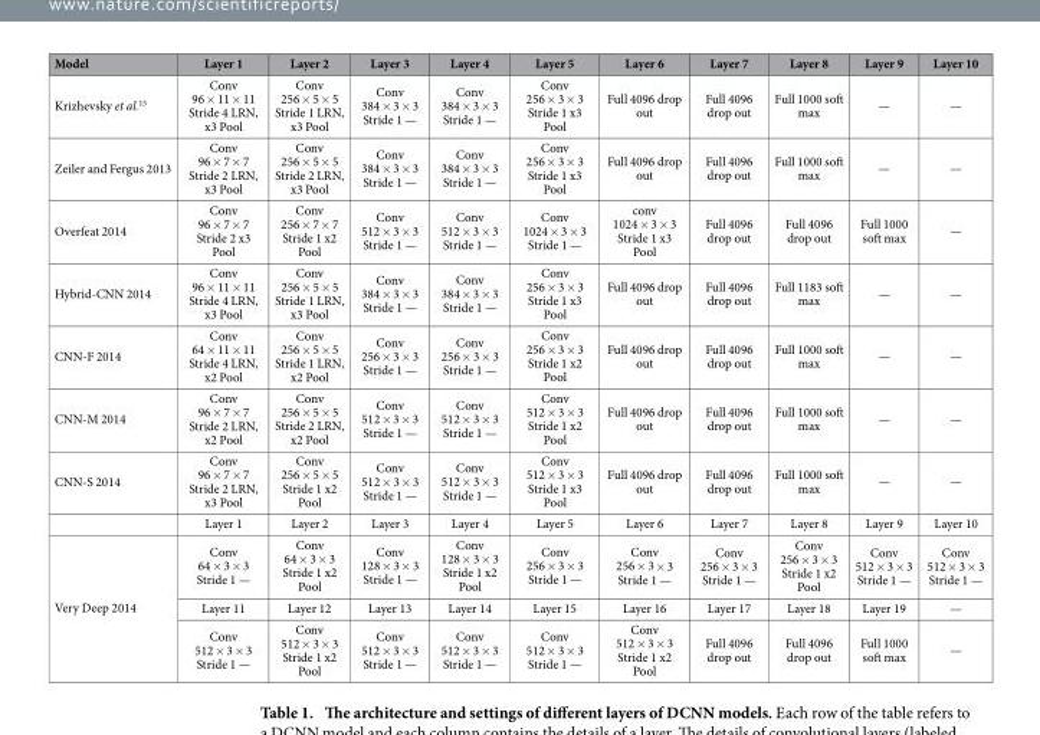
<table><thead><tr><td>Model</td><td>Layer 1</td><td>Layer 2</td><td>Layer 3</td><td>Layer 4</td><td>Layer 5</td><td>Layer 6</td><td>Layer 7</td><td>Layer 8</td><td>Layer 9</td><td>Layer 10</td></tr></thead><tbody><tr><td>Krizhevsky et al.<sup>15</sup></td><td>Conv 96 × 11 × 11 Stride 4 LRN, x3 Pool</td><td>Conv 256 × 5 × 5 Stride 1 LRN, x3 Pool</td><td>Conv 384 × 3 × 3 Stride 1 —</td><td>Conv 384 × 3 × 3 Stride 1 —</td><td>Conv 256 × 3 × 3 Stride 1 x3 Pool</td><td>Full 4096 drop out</td><td>Full 4096 drop out</td><td>Full 1000 soft max</td><td>—</td><td>—</td></tr><tr><td>Zeiler and Fergus 2013</td><td>Conv 96 × 7 × 7 Stride 2 LRN, x3 Pool</td><td>Conv 256 × 5 × 5 Stride 2 LRN, x3 Pool</td><td>Conv 384 × 3 × 3 Stride 1 —</td><td>Conv 384 × 3 × 3 Stride 1 —</td><td>Conv 256 × 3 × 3 Stride 1 x3 Pool</td><td>Full 4096 drop out</td><td>Full 4096 drop out</td><td>Full 1000 soft max</td><td>—</td><td>—</td></tr><tr><td>Overfeat 2014</td><td>Conv 96 × 7 × 7 Stride 2 x3 Pool</td><td>Conv 256 × 7 × 7 Stride 1 x2 Pool</td><td>Conv 512 × 3 × 3 Stride 1 —</td><td>Conv 512 × 3 × 3 Stride 1 —</td><td>Conv 1024 × 3 × 3 Stride 1 —</td><td>conv 1024 × 3 × 3 Stride 1 x3 Pool</td><td>Full 4096 drop out</td><td>Full 4096 drop out</td><td>Full 1000 soft max</td><td>—</td></tr><tr><td>Hybrid-CNN 2014</td><td>Conv 96 × 11 × 11 Stride 4 LRN, x3 Pool</td><td>Conv 256 × 5 × 5 Stride 1 LRN, x3 Pool</td><td>Conv 384 × 3 × 3 Stride 1 —</td><td>Conv 384 × 3 × 3 Stride 1 —</td><td>Conv 256 × 3 × 3 Stride 1 x3 Pool</td><td>Full 4096 drop out</td><td>Full 4096 drop out</td><td>Full 1183 soft max</td><td>—</td><td>—</td></tr><tr><td>CNN-F 2014</td><td>Conv 64 × 11 × 11 Stride 4 LRN, x2 Pool</td><td>Conv 256 × 5 × 5 Stride 1 LRN, x2 Pool</td><td>Conv 256 × 3 × 3 Stride 1 —</td><td>Conv 256 × 3 × 3 Stride 1 —</td><td>Conv 256 × 3 × 3 Stride 1 x2 Pool</td><td>Full 4096 drop out</td><td>Full 4096 drop out</td><td>Full 1000 soft max</td><td>—</td><td>—</td></tr><tr><td>CNN-M 2014</td><td>Conv 96 × 7 × 7 Stride 2 LRN, x2 Pool</td><td>Conv 256 × 5 × 5 Stride 2 LRN, x2 Pool</td><td>Conv 512 × 3 × 3 Stride 1 —</td><td>Conv 512 × 3 × 3 Stride 1 —</td><td>Conv 512 × 3 × 3 Stride 1 x2 Pool</td><td>Full 4096 drop out</td><td>Full 4096 drop out</td><td>Full 1000 soft max</td><td>—</td><td>—</td></tr><tr><td rowspan="2">CNN-S 2014</td><td>Conv 96 × 7 × 7 Stride 2 LRN, x3 Pool</td><td>Conv 256 × 5 × 5 Stride 1 x2 Pool</td><td>Conv 512 × 3 × 3 Stride 1 —</td><td>Conv 512 × 3 × 3 Stride 1 —</td><td>Conv 512 × 3 × 3 Stride 1 x3 Pool</td><td>Full 4096 drop out</td><td>Full 4096 drop out</td><td>Full 1000 soft max</td><td>—</td><td>—</td></tr><tr><td>Layer 1</td><td>Layer 2</td><td>Layer 3</td><td>Layer 4</td><td>Layer 5</td><td>Layer 6</td><td>Layer 7</td><td>Layer 8</td><td>Layer 9</td><td>Layer 10</td></tr><tr><td rowspan="3">Very Deep 2014</td><td>Conv 64 × 3 × 3 Stride 1 —</td><td>Conv 64 × 3 × 3 Stride 1 x2 Pool</td><td>Conv 128 × 3 × 3 Stride 1 —</td><td>Conv 128 × 3 × 3 Stride 1 x2 Pool</td><td>Conv 256 × 3 × 3 Stride 1 —</td><td>Conv 256 × 3 × 3 Stride 1 —</td><td>Conv 256 × 3 × 3 Stride 1 —</td><td>Conv 256 × 3 × 3 Stride 1 x2 Pool</td><td>Conv 512 × 3 × 3 Stride 1 —</td><td>Conv 512 × 3 × 3 Stride 1 —</td></tr><tr><td>Layer 11</td><td>Layer 12</td><td>Layer 13</td><td>Layer 14</td><td>Layer 15</td><td>Layer 16</td><td>Layer 17</td><td>Layer 18</td><td>Layer 19</td><td>—</td></tr><tr><td>Conv 512 × 3 × 3 Stride 1 —</td><td>Conv 512 × 3 × 3 Stride 1 x2 Pool</td><td>Conv 512 × 3 × 3 Stride 1 —</td><td>Conv 512 × 3 × 3 Stride 1 —</td><td>Conv 512 × 3 × 3 Stride 1 —</td><td>Conv 512 × 3 × 3 Stride 1 x2 Pool</td><td>Full 4096 drop out</td><td>Full 4096 drop out</td><td>Full 1000 soft max</td><td>—</td></tr></tbody></table>